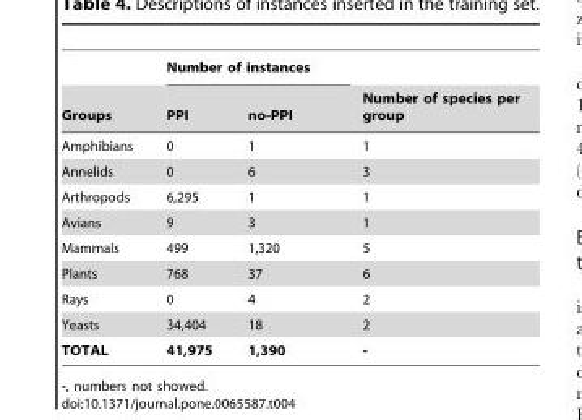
<table><thead><tr><td rowspan="2">Groups</td><td colspan="2">Number of instances</td><td rowspan="2">Number of species per group</td></tr><tr><td>PPI</td><td>no-PPI</td></tr></thead><tbody><tr><td>Amphibians</td><td>0</td><td>1</td><td>1</td></tr><tr><td>Annelids</td><td>0</td><td>6</td><td>3</td></tr><tr><td>Arthropods</td><td>6,295</td><td>1</td><td>1</td></tr><tr><td>Avians</td><td>9</td><td>3</td><td>1</td></tr><tr><td>Mammals</td><td>499</td><td>1,320</td><td>5</td></tr><tr><td>Plants</td><td>768</td><td>37</td><td>6</td></tr><tr><td>Rays</td><td>0</td><td>4</td><td>2</td></tr><tr><td>Yeasts</td><td>34,404</td><td>18</td><td>2</td></tr><tr><td>TOTAL</td><td>41,975</td><td>1,390</td><td>-</td></tr></tbody></table>